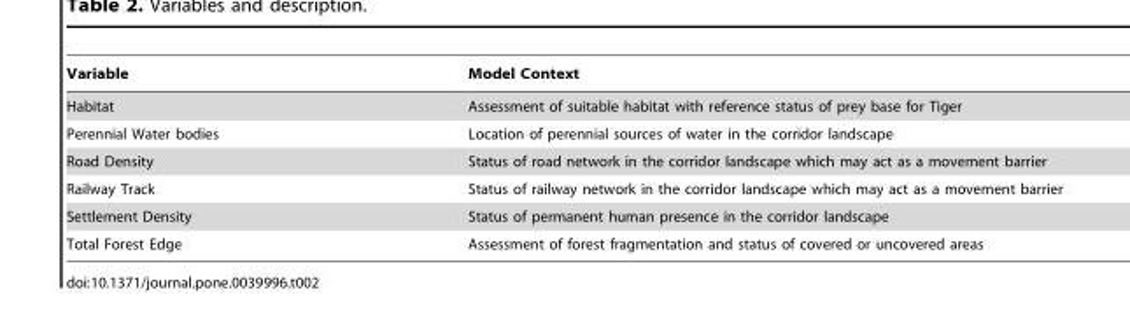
<table><thead><tr><td>Variable</td><td>Model Context</td></tr></thead><tbody><tr><td>Habitat</td><td>Assessment of suitable habitat with reference status of prey base for Tiger</td></tr><tr><td>Perennial Water bodies</td><td>Location of perennial sources of water in the corridor landscape</td></tr><tr><td>Road Density</td><td>Status of road network in the corridor landscape which may act as a movement barrier</td></tr><tr><td>Railway Track</td><td>Status of railway network in the corridor landscape which may act as a movement barrier</td></tr><tr><td>Settlement Density</td><td>Status of permanent human presence in the corridor landscape</td></tr><tr><td>Total Forest Edge</td><td>Assessment of forest fragmentation and status of covered or uncovered areas</td></tr></tbody></table>